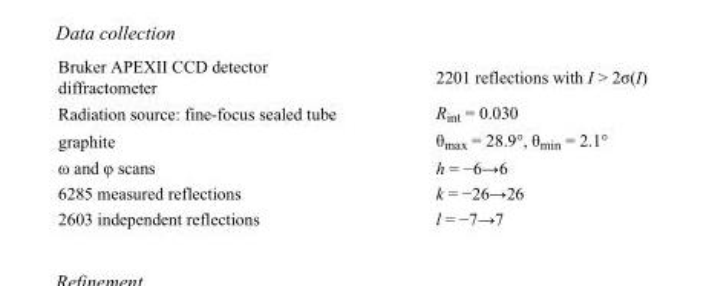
<table><tbody><tr><td>Bruker APEXII CCD detector diffractometer</td><td>2201 reflections with I &gt; 2σ(I)</td></tr><tr><td>Radiation source: fine-focus sealed tube</td><td>R<sub>int</sub> = 0.030</td></tr><tr><td>graphite</td><td>θ<sub>max</sub> = 28.9°, θ<sub>min</sub> = 2.1°</td></tr><tr><td>ω and φ scans</td><td>h = −6→6</td></tr><tr><td>6285 measured reflections</td><td>k = −26→26</td></tr><tr><td>2603 independent reflections</td><td>l = −7→7</td></tr></tbody></table>